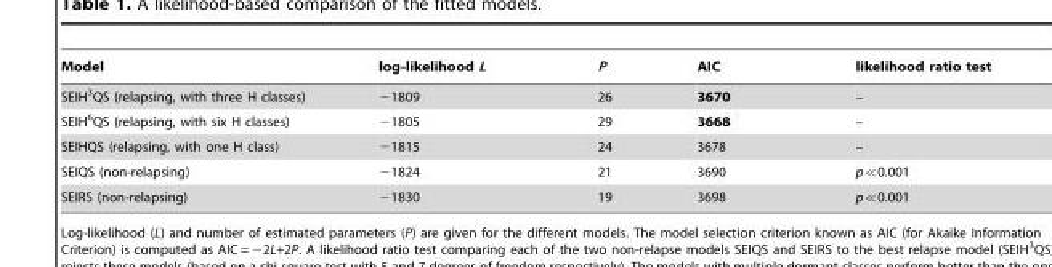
<table><thead><tr><td>Model</td><td>log-likelihood L</td><td>P</td><td>AIC</td><td>likelihood ratio test</td></tr></thead><tbody><tr><td>SEIH<sup>3</sup>QS (relapsing, with three H classes)</td><td>−1809</td><td>26</td><td>3670</td><td>–</td></tr><tr><td>SEIH<sup>6</sup>QS (relapsing, with six H classes)</td><td>−1805</td><td>29</td><td>3668</td><td>–</td></tr><tr><td>SEIHQS (relapsing, with one H class)</td><td>−1815</td><td>24</td><td>3678</td><td>–</td></tr><tr><td>SEIQS (non-relapsing)</td><td>−1824</td><td>21</td><td>3690</td><td>p≪0.001</td></tr><tr><td>SEIRS (non-relapsing)</td><td>−1830</td><td>19</td><td>3698</td><td>p≪0.001</td></tr></tbody></table>